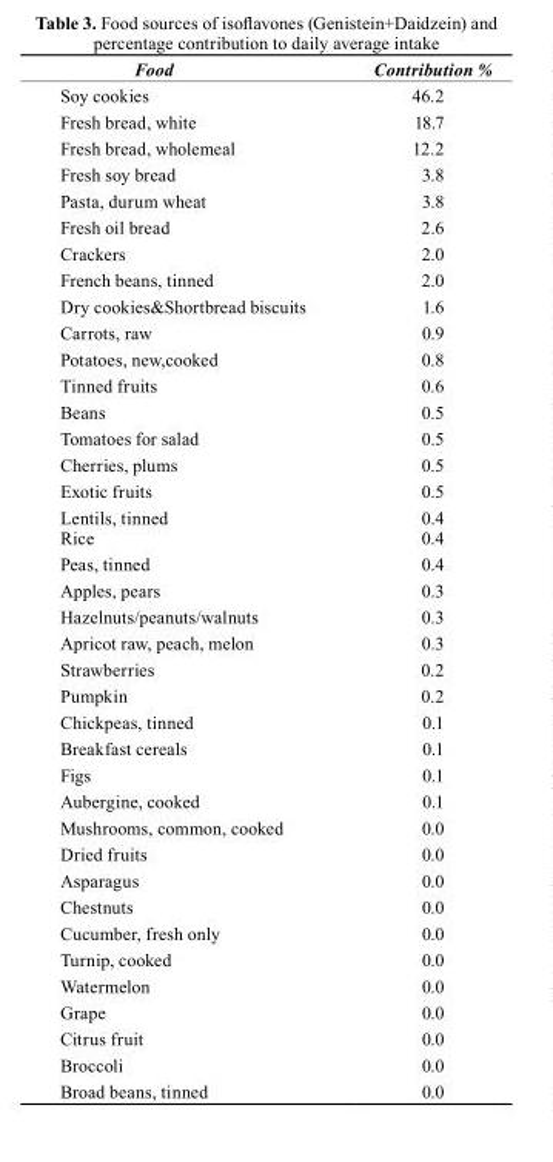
<table><thead><tr><td>Food</td><td>Contribution %</td></tr></thead><tbody><tr><td>Soy cookies</td><td>46.2</td></tr><tr><td>Fresh bread, white</td><td>18.7</td></tr><tr><td>Fresh bread, wholemeal</td><td>12.2</td></tr><tr><td>Fresh soy bread</td><td>3.8</td></tr><tr><td>Pasta, durum wheat</td><td>3.8</td></tr><tr><td>Fresh oil bread</td><td>2.6</td></tr><tr><td>Crackers</td><td>2.0</td></tr><tr><td>French beans, tinned</td><td>2.0</td></tr><tr><td>Dry cookies&amp;Shortbread biscuits</td><td>1.6</td></tr><tr><td>Carrots, raw</td><td>0.9</td></tr><tr><td>Potatoes, new,cooked</td><td>0.8</td></tr><tr><td>Tinned fruits</td><td>0.6</td></tr><tr><td>Beans</td><td>0.5</td></tr><tr><td>Tomatoes for salad</td><td>0.5</td></tr><tr><td>Cherries, plums</td><td>0.5</td></tr><tr><td>Exotic fruits</td><td>0.5</td></tr><tr><td>Lentils, tinned</td><td>0.4</td></tr><tr><td>Rice</td><td>0.4</td></tr><tr><td>Peas, tinned</td><td>0.4</td></tr><tr><td>Apples, pears</td><td>0.3</td></tr><tr><td>Hazelnuts/peanuts/walnuts</td><td>0.3</td></tr><tr><td>Apricot raw, peach, melon</td><td>0.3</td></tr><tr><td>Strawberries</td><td>0.2</td></tr><tr><td>Pumpkin</td><td>0.2</td></tr><tr><td>Chickpeas, tinned</td><td>0.1</td></tr><tr><td>Breakfast cereals</td><td>0.1</td></tr><tr><td>Figs</td><td>0.1</td></tr><tr><td>Aubergine, cooked</td><td>0.1</td></tr><tr><td>Mushrooms, common, cooked</td><td>0.0</td></tr><tr><td>Dried fruits</td><td>0.0</td></tr><tr><td>Asparagus</td><td>0.0</td></tr><tr><td>Chestnuts</td><td>0.0</td></tr><tr><td>Cucumber, fresh only</td><td>0.0</td></tr><tr><td>Turnip, cooked</td><td>0.0</td></tr><tr><td>Watermelon</td><td>0.0</td></tr><tr><td>Grape</td><td>0.0</td></tr><tr><td>Citrus fruit</td><td>0.0</td></tr><tr><td>Broccoli</td><td>0.0</td></tr><tr><td>Broad beans, tinned</td><td>0.0</td></tr></tbody></table>